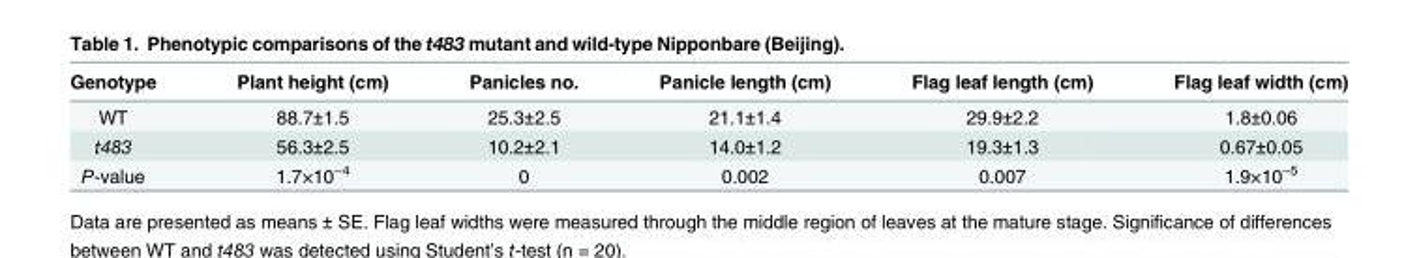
<table><thead><tr><td>Genotype</td><td>Plant height (cm)</td><td>Panicles no.</td><td>Panicle length (cm)</td><td>Flag leaf length (cm)</td><td>Flag leaf width (cm)</td></tr></thead><tbody><tr><td>WT</td><td>88.7±1.5</td><td>25.3±2.5</td><td>21.1±1.4</td><td>29.9±2.2</td><td>1.8±0.06</td></tr><tr><td>t483</td><td>56.3±2.5</td><td>10.2±2.1</td><td>14.0±1.2</td><td>19.3±1.3</td><td>0.67±0.05</td></tr><tr><td>P-value</td><td>1.7×10<sup>−4</sup></td><td>0</td><td>0.002</td><td>0.007</td><td>1.9×10<sup>−5</sup></td></tr></tbody></table>